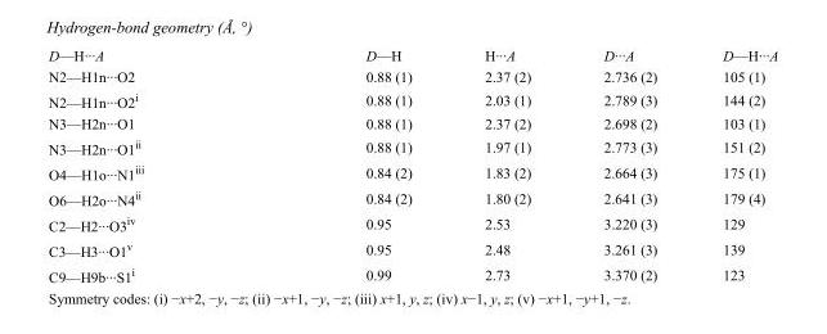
<table><tbody><tr><td>D—H···A</td><td>D—H</td><td>H···A</td><td>D···A</td><td>D—H···A</td></tr><tr><td>N2—H1n···O2</td><td>0.88 (1)</td><td>2.37 (2)</td><td>2.736 (2)</td><td>105 (1)</td></tr><tr><td>N2—H1n···O2<sup>i</sup></td><td>0.88 (1)</td><td>2.03 (1)</td><td>2.789 (3)</td><td>144 (2)</td></tr><tr><td>N3—H2n···O1</td><td>0.88 (1)</td><td>2.37 (2)</td><td>2.698 (2)</td><td>103 (1)</td></tr><tr><td>N3—H2n···O1<sup>ii</sup></td><td>0.88 (1)</td><td>1.97 (1)</td><td>2.773 (3)</td><td>151 (2)</td></tr><tr><td>O4—H1o···N1<sup>iii</sup></td><td>0.84 (2)</td><td>1.83 (2)</td><td>2.664 (3)</td><td>175 (1)</td></tr><tr><td>O6—H2o···N4<sup>ii</sup></td><td>0.84 (2)</td><td>1.80 (2)</td><td>2.641 (3)</td><td>179 (4)</td></tr><tr><td>C2—H2···O3<sup>iv</sup></td><td>0.95</td><td>2.53</td><td>3.220 (3)</td><td>129</td></tr><tr><td>C3—H3···O1<sup>v</sup></td><td>0.95</td><td>2.48</td><td>3.261 (3)</td><td>139</td></tr><tr><td>C9—H9b···S1<sup>i</sup></td><td>0.99</td><td>2.73</td><td>3.370 (2)</td><td>123</td></tr></tbody></table>